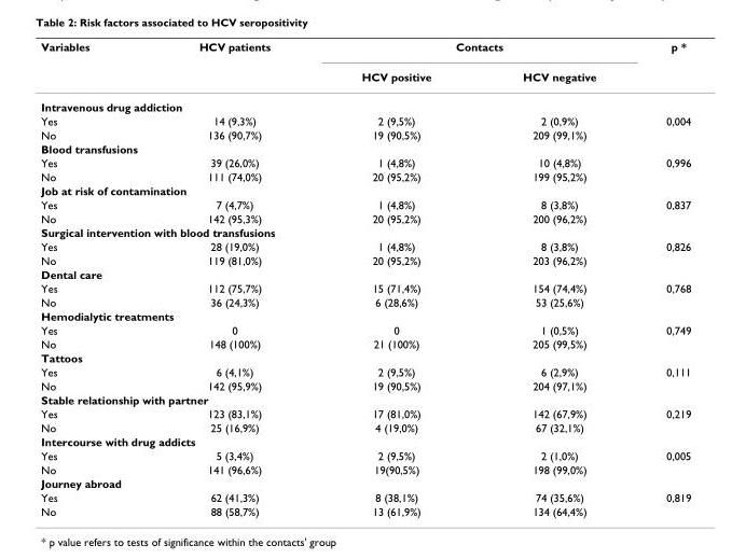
<table><thead><tr><td rowspan="2">Variables</td><td rowspan="2">HCV patients</td><td colspan="2">Contacts</td><td rowspan="2">p *</td></tr><tr><td>HCV positive</td><td>HCV negative</td></tr></thead><tbody><tr><td colspan="5">Intravenous drug addiction</td></tr><tr><td>Yes</td><td>14 (9,3%)</td><td>2 (9,5%)</td><td>2 (0,9%)</td><td>0,004</td></tr><tr><td>No</td><td>136 (90,7%)</td><td>19 (90,5%)</td><td>209 (99,1%)</td><td></td></tr><tr><td colspan="5">Blood transfusions</td></tr><tr><td>Yes</td><td>39 (26,0%)</td><td>1 (4,8%)</td><td>10 (4,8%)</td><td>0,996</td></tr><tr><td>No</td><td>111 (74,0%)</td><td>20 (95,2%)</td><td>199 (95,2%)</td><td></td></tr><tr><td colspan="5">Job at risk of contamination</td></tr><tr><td>Yes</td><td>7 (4,7%)</td><td>1 (4,8%)</td><td>8 (3,8%)</td><td>0,837</td></tr><tr><td>No</td><td>142 (95,3%)</td><td>20 (95,2%)</td><td>200 (96,2%)</td><td></td></tr><tr><td colspan="5">Surgical intervention with blood transfusions</td></tr><tr><td>Yes</td><td>28 (19,0%)</td><td>1 (4,8%)</td><td>8 (3,8%)</td><td>0,826</td></tr><tr><td>No</td><td>119 (81,0%)</td><td>20 (95,2%)</td><td>203 (96,2%)</td><td></td></tr><tr><td colspan="5">Dental care</td></tr><tr><td>Yes</td><td>112 (75,7%)</td><td>15 (71,4%)</td><td>154 (74,4%)</td><td>0,768</td></tr><tr><td>No</td><td>36 (24,3%)</td><td>6 (28,6%)</td><td>53 (25,6%)</td><td></td></tr><tr><td colspan="5">Hemodialytic treatments</td></tr><tr><td>Yes</td><td>0</td><td>0</td><td>1 (0,5%)</td><td>0,749</td></tr><tr><td>No</td><td>148 (100%)</td><td>21 (100%)</td><td>205 (99,5%)</td><td></td></tr><tr><td colspan="5">Tattoos</td></tr><tr><td>Yes</td><td>6 (4,1%)</td><td>2 (9,5%)</td><td>6 (2,9%)</td><td>0,111</td></tr><tr><td>No</td><td>142 (95,9%)</td><td>19 (90,5%)</td><td>204 (97,1%)</td><td></td></tr><tr><td colspan="5">Stable relationship with partner</td></tr><tr><td>Yes</td><td>123 (83,1%)</td><td>17 (81,0%)</td><td>142 (67,9%)</td><td>0,219</td></tr><tr><td>No</td><td>25 (16,9%)</td><td>4 (19,0%)</td><td>67 (32,1%)</td><td></td></tr><tr><td colspan="5">Intercourse with drug addicts</td></tr><tr><td>Yes</td><td>5 (3,4%)</td><td>2 (9,5%)</td><td>2 (1,0%)</td><td>0,005</td></tr><tr><td>No</td><td>141 (96,6%)</td><td>19(90,5%)</td><td>198 (99,0%)</td><td></td></tr><tr><td colspan="5">Journey abroad</td></tr><tr><td>Yes</td><td>62 (41,3%)</td><td>8 (38,1%)</td><td>74 (35,6%)</td><td>0,819</td></tr><tr><td>No</td><td>88 (58,7%)</td><td>13 (61,9%)</td><td>134 (64,4%)</td><td></td></tr></tbody></table>